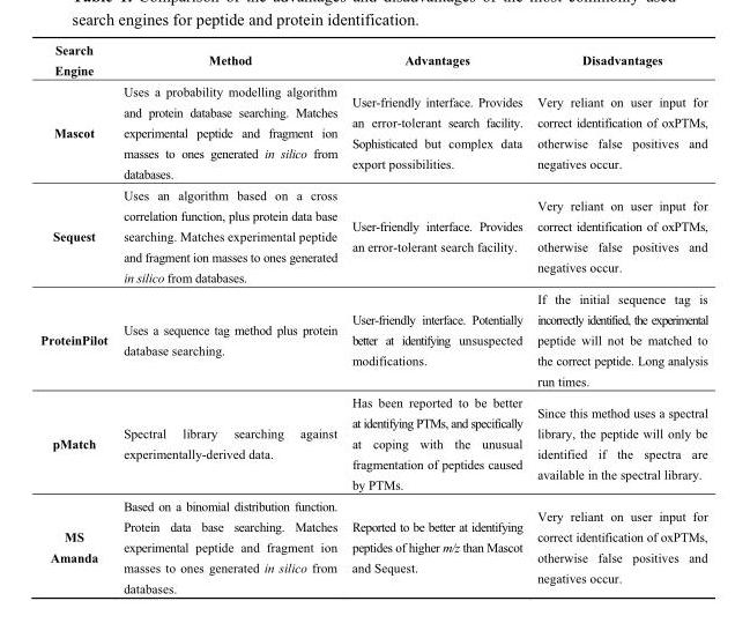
<table><thead><tr><td>Search Engine</td><td>Method</td><td>Advantages</td><td>Disadvantages</td></tr></thead><tbody><tr><td>Mascot</td><td>Uses a probability modelling algorithm and protein database searching. Matches experimental peptide and fragment ion masses to ones generated in silico from databases.</td><td>User-friendly interface. Provides an error-tolerant search facility. Sophisticated but complex data export possibilities.</td><td>Very reliant on user input for correct identification of oxPTMs, otherwise false positives and negatives occur.</td></tr><tr><td>Sequest</td><td>Uses an algorithm based on a cross correlation function, plus protein data base searching. Matches experimental peptide and fragment ion masses to ones generated in silico from databases.</td><td>User-friendly interface. Provides an error-tolerant search facility.</td><td>Very reliant on user input for correct identification of oxPTMs, otherwise false positives and negatives occur.</td></tr><tr><td>ProteinPilot</td><td>Uses a sequence tag method plus protein database searching.</td><td>User-friendly interface. Potentially better at identifying unsuspected modifications.</td><td>If the initial sequence tag is incorrectly identified, the experimental peptide will not be matched to the correct peptide. Long analysis run times.</td></tr><tr><td>pMatch</td><td>Spectral library searching against experimentally-derived data.</td><td>Has been reported to be better at identifying PTMs, and specifically at coping with the unusual fragmentation of peptides caused by PTMs.</td><td>Since this method uses a spectral library, the peptide will only be identified if the spectra are available in the spectral library.</td></tr><tr><td>MS Amanda</td><td>Based on a binomial distribution function. Protein data base searching. Matches experimental peptide and fragment ion masses to ones generated in silico from databases.</td><td>Reported to be better at identifying peptides of higher m/z than Mascot and Sequest.</td><td>Very reliant on user input for correct identification of oxPTMs, otherwise false positives and negatives occur.</td></tr></tbody></table>